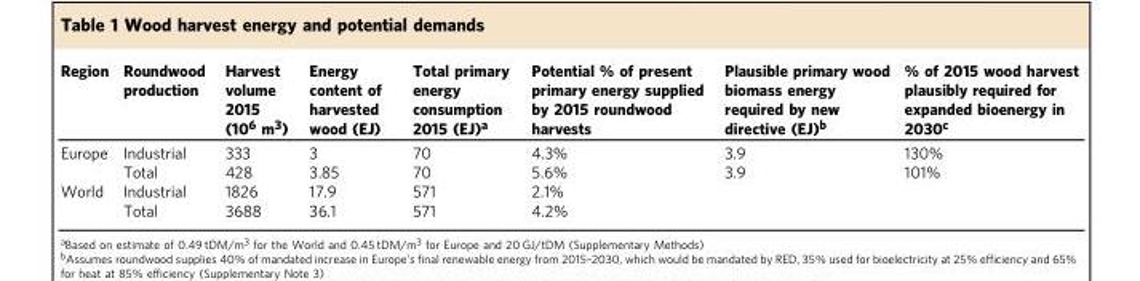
<table><thead><tr><td>Region</td><td>Roundwood production</td><td>Harvest volume 2015 (10<sup>6</sup> m<sup>3</sup>)</td><td>Energy content of harvested wood (EJ)</td><td>Total primary energy consumption 2015 (EJ)<sup>a</sup></td><td>Potential % of present primary energy supplied by 2015 roundwood harvests</td><td>Plausible primary wood biomass energy required by new directive (EJ)<sup>b</sup></td><td>% of 2015 wood harvest plausibly required for expanded bioenergy in 2030<sup>c</sup></td></tr></thead><tbody><tr><td rowspan="2">Europe</td><td>Industrial</td><td>333</td><td>3</td><td>70</td><td>4.3%</td><td>3.9</td><td>130%</td></tr><tr><td>Total</td><td>428</td><td>3.85</td><td>70</td><td>5.6%</td><td>3.9</td><td>101%</td></tr><tr><td rowspan="2">World</td><td>Industrial</td><td>1826</td><td>17.9</td><td>571</td><td>2.1%</td><td></td><td></td></tr><tr><td>Total</td><td>3688</td><td>36.1</td><td>571</td><td>4.2%</td><td></td><td></td></tr></tbody></table>